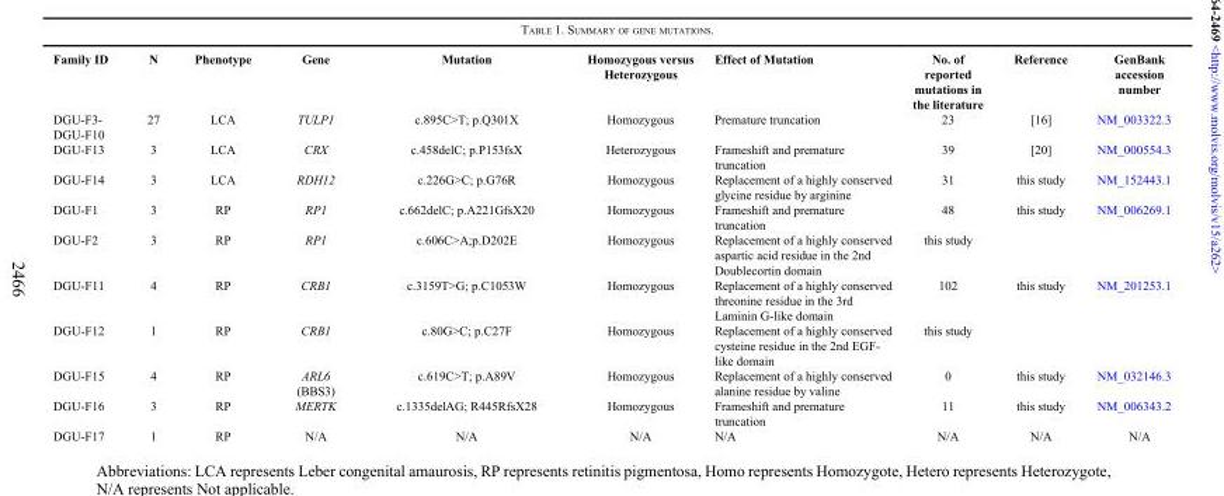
<table><thead><tr><td>Family ID</td><td>N</td><td>Phenotype</td><td>Gene</td><td>Mutation</td><td>Homozygous versus Heterozygous</td><td>Effect of Mutation</td><td>No. of reported mutations in the literature</td><td>Reference</td><td>GenBank accession number</td></tr></thead><tbody><tr><td>DGU-F3- DGU-F10</td><td>27</td><td>LCA</td><td>TULP1</td><td>c.895C&gt;T; p.Q301X</td><td>Homozygous</td><td>Premature truncation</td><td>23</td><td>[16]</td><td>NM_003322.3</td></tr><tr><td>DGU-F13</td><td>3</td><td>LCA</td><td>CRX</td><td>c.458delC; p.P153fsX</td><td>Heterozygous</td><td>Frameshift and premature truncation</td><td>39</td><td>[20]</td><td>NM_000554.3</td></tr><tr><td>DGU-F14</td><td>3</td><td>LCA</td><td>RDH12</td><td>c.226G&gt;C; p.G76R</td><td>Homozygous</td><td>Replacement of a highly conserved glycine residue by arginine</td><td>31</td><td>this study</td><td>NM_152443.1</td></tr><tr><td>DGU-F1</td><td>3</td><td>RP</td><td>RP1</td><td>c.662delC; p.A221GfsX20</td><td>Homozygous</td><td>Frameshift and premature truncation</td><td>48</td><td>this study</td><td>NM_006269.1</td></tr><tr><td>DGU-F2</td><td>3</td><td>RP</td><td>RP1</td><td>c.606C&gt;A;p.D202E</td><td>Homozygous</td><td>Replacement of a highly conserved aspartic acid residue in the 2nd Doublecortin domain</td><td>this study</td><td></td><td></td></tr><tr><td>DGU-F11</td><td>4</td><td>RP</td><td>CRB1</td><td>c.3159T&gt;G; p.C1053W</td><td>Homozygous</td><td>Replacement of a highly conserved threonine residue in the 3rd Laminin G-like domain</td><td>102</td><td>this study</td><td>NM_201253.1</td></tr><tr><td>DGU-F12</td><td>1</td><td>RP</td><td>CRB1</td><td>c.80G&gt;C; p.C27F</td><td>Homozygous</td><td>Replacement of a highly conserved cysteine residue in the 2nd EGF- like domain</td><td>this study</td><td></td><td></td></tr><tr><td>DGU-F15</td><td>4</td><td>RP</td><td>ARL6 (BBS3)</td><td>c.619C&gt;T; p.A89V</td><td>Homozygous</td><td>Replacement of a highly conserved alanine residue by valine</td><td>0</td><td>this study</td><td>NM_032146.3</td></tr><tr><td>DGU-F16</td><td>3</td><td>RP</td><td>MERTK</td><td>c.1335delAG; R445RfsX28</td><td>Homozygous</td><td>Frameshift and premature truncation</td><td>11</td><td>this study</td><td>NM_006343.2</td></tr><tr><td>DGU-F17</td><td>1</td><td>RP</td><td>N/A</td><td>N/A</td><td>N/A</td><td>N/A</td><td>N/A</td><td>N/A</td><td>N/A</td></tr></tbody></table>